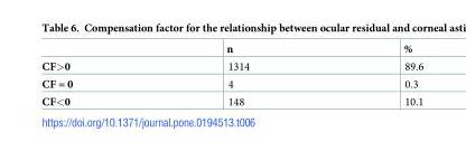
<table><thead><tr><td></td><td>n</td><td>%</td></tr></thead><tbody><tr><td>CF&gt;0</td><td>1314</td><td>89.6</td></tr><tr><td>CF = 0</td><td>4</td><td>0.3</td></tr><tr><td>CF&lt;0</td><td>148</td><td>10.1</td></tr></tbody></table>